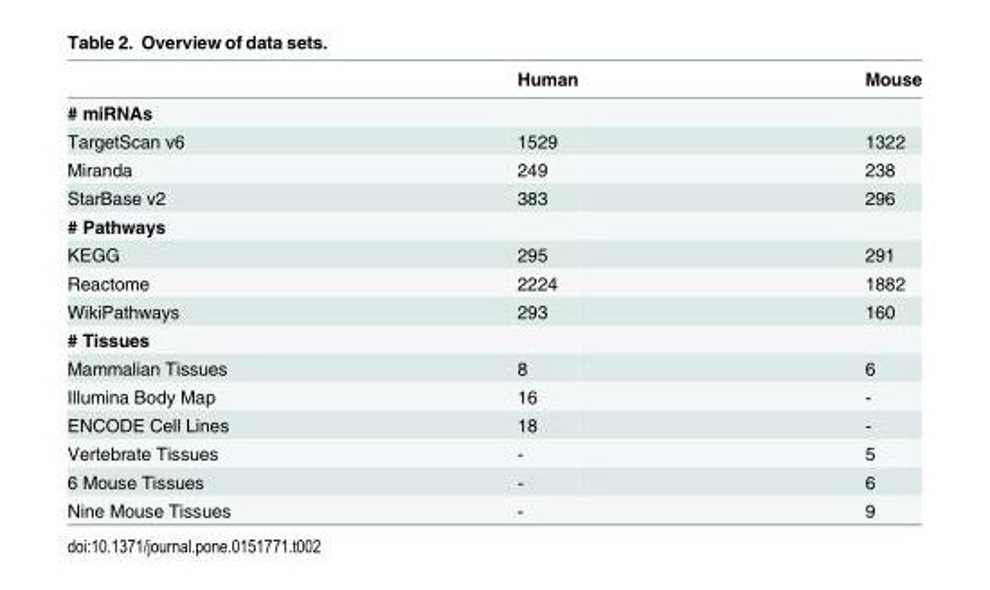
<table><thead><tr><td></td><td>Human</td><td>Mouse</td></tr></thead><tbody><tr><td colspan="3"># miRNAs</td></tr><tr><td>TargetScan v6</td><td>1529</td><td>1322</td></tr><tr><td>Miranda</td><td>249</td><td>238</td></tr><tr><td>StarBase v2</td><td>383</td><td>296</td></tr><tr><td colspan="3"># Pathways</td></tr><tr><td>KEGG</td><td>295</td><td>291</td></tr><tr><td>Reactome</td><td>2224</td><td>1882</td></tr><tr><td>WikiPathways</td><td>293</td><td>160</td></tr><tr><td colspan="3"># Tissues</td></tr><tr><td>Mammalian Tissues</td><td>8</td><td>6</td></tr><tr><td>Illumina Body Map</td><td>16</td><td>-</td></tr><tr><td>ENCODE Cell Lines</td><td>18</td><td>-</td></tr><tr><td>Vertebrate Tissues</td><td>-</td><td>5</td></tr><tr><td>6 Mouse Tissues</td><td>-</td><td>6</td></tr><tr><td>Nine Mouse Tissues</td><td>-</td><td>9</td></tr></tbody></table>